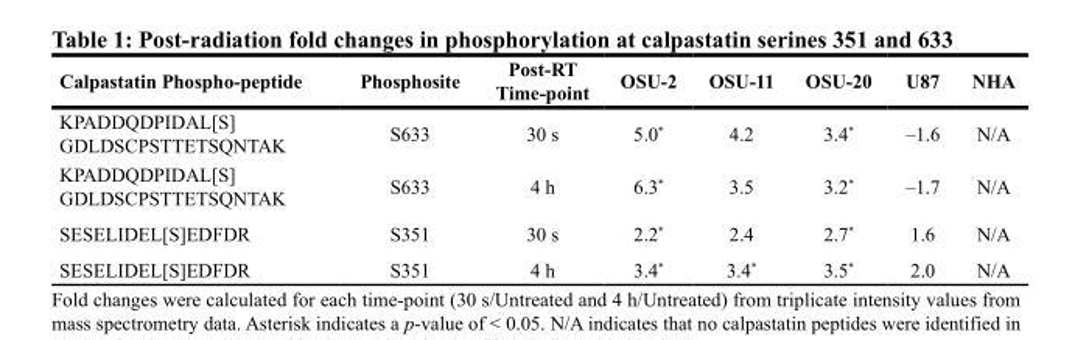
<table><thead><tr><td>Calpastatin Phospho-peptide</td><td>Phosphosite</td><td>Post-RT Time-point</td><td>OSU-2</td><td>OSU-11</td><td>OSU-20</td><td>U87</td><td>NHA</td></tr></thead><tbody><tr><td>KPADDQDPIDAL[S] GDLDSCPSTTETSQNTAK</td><td>S633</td><td>30 s</td><td>5.0*</td><td>4.2</td><td>3.4*</td><td>–1.6</td><td>N/A</td></tr><tr><td>KPADDQDPIDAL[S] GDLDSCPSTTETSQNTAK</td><td>S633</td><td>4 h</td><td>6.3*</td><td>3.5</td><td>3.2*</td><td>–1.7</td><td>N/A</td></tr><tr><td>SESELIDEL[S]EDFDR</td><td>S351</td><td>30 s</td><td>2.2*</td><td>2.4</td><td>2.7*</td><td>1.6</td><td>N/A</td></tr><tr><td>SESELIDEL[S]EDFDR</td><td>S351</td><td>4 h</td><td>3.4*</td><td>3.4*</td><td>3.5*</td><td>2.0</td><td>N/A</td></tr></tbody></table>